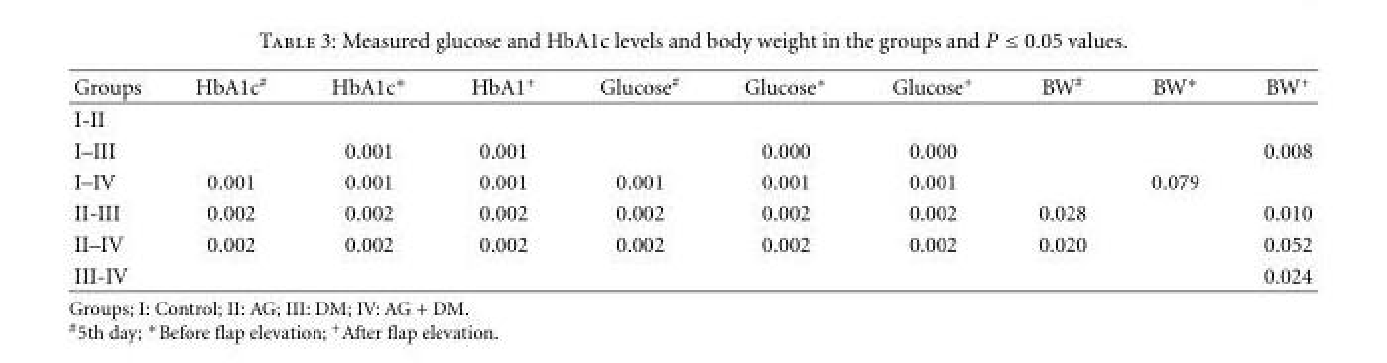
<table><thead><tr><td>Groups</td><td>HbA1c<sup>#</sup></td><td>HbA1c∗</td><td>HbA1<sup>+</sup></td><td>Glucose<sup>#</sup></td><td>Glucose∗</td><td>Glucose<sup>+</sup></td><td>BW<sup>#</sup></td><td>BW∗</td><td>BW<sup>+</sup></td></tr></thead><tbody><tr><td colspan="10">I-II</td></tr><tr><td>I–III</td><td></td><td>0.001</td><td>0.001</td><td></td><td>0.000</td><td>0.000</td><td></td><td></td><td>0.008</td></tr><tr><td>I–IV</td><td>0.001</td><td>0.001</td><td>0.001</td><td>0.001</td><td>0.001</td><td>0.001</td><td></td><td>0.079</td><td></td></tr><tr><td>II-III</td><td>0.002</td><td>0.002</td><td>0.002</td><td>0.002</td><td>0.002</td><td>0.002</td><td>0.028</td><td></td><td>0.010</td></tr><tr><td>II–IV</td><td>0.002</td><td>0.002</td><td>0.002</td><td>0.002</td><td>0.002</td><td>0.002</td><td>0.020</td><td></td><td>0.052</td></tr><tr><td>III-IV</td><td></td><td></td><td></td><td></td><td></td><td></td><td></td><td></td><td>0.024</td></tr></tbody></table>